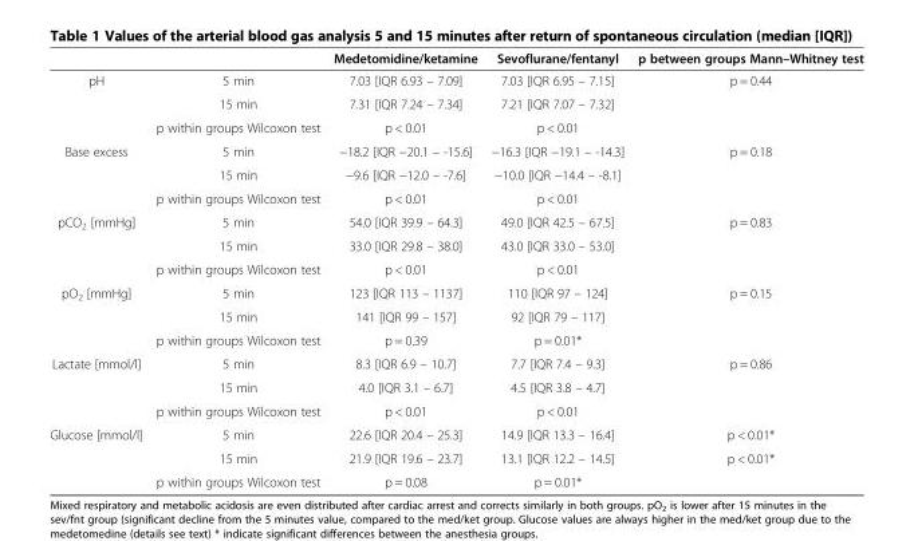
<table><thead><tr><td></td><td></td><td>Medetomidine/ketamine</td><td>Sevoflurane/fentanyl</td><td>p between groups Mann–Whitney test</td></tr></thead><tbody><tr><td rowspan="3">pH</td><td>5 min</td><td>7.03 [IQR 6.93 – 7.09]</td><td>7.03 [IQR 6.95 – 7.15]</td><td>p = 0.44</td></tr><tr><td>15 min</td><td>7.31 [IQR 7.24 – 7.34]</td><td>7.21 [IQR 7.07 – 7.32]</td><td rowspan="2"></td></tr><tr><td>p within groups Wilcoxon test</td><td>p &lt; 0.01</td><td>p &lt; 0.01</td></tr><tr><td rowspan="3">Base excess</td><td>5 min</td><td>−18.2 [IQR −20.1 – -15.6]</td><td>−16.3 [IQR −19.1 – -14.3]</td><td>p = 0.18</td></tr><tr><td>15 min</td><td>−9.6 [IQR −12.0 – -7.6]</td><td>−10.0 [IQR −14.4 – -8.1]</td><td rowspan="2"></td></tr><tr><td>p within groups Wilcoxon test</td><td>p &lt; 0.01</td><td>p &lt; 0.01</td></tr><tr><td rowspan="3">pCO<sub>2</sub> [mmHg]</td><td>5 min</td><td>54.0 [IQR 39.9 – 64.3]</td><td>49.0 [IQR 42.5 – 67.5]</td><td>p = 0.83</td></tr><tr><td>15 min</td><td>33.0 [IQR 29.8 – 38.0]</td><td>43.0 [IQR 33.0 – 53.0]</td><td rowspan="2"></td></tr><tr><td>p within groups Wilcoxon test</td><td>p &lt; 0.01</td><td>p &lt; 0.01</td></tr><tr><td rowspan="3">pO<sub>2</sub> [mmHg]</td><td>5 min</td><td>123 [IQR 113 – 1137]</td><td>110 [IQR 97 – 124]</td><td>p = 0.15</td></tr><tr><td>15 min</td><td>141 [IQR 99 – 157]</td><td>92 [IQR 79 – 117]</td><td rowspan="2"></td></tr><tr><td>p within groups Wilcoxon test</td><td>p = 0.39</td><td>p = 0.01*</td></tr><tr><td rowspan="3">Lactate [mmol/l]</td><td>5 min</td><td>8.3 [IQR 6.9 – 10.7]</td><td>7.7 [IQR 7.4 – 9.3]</td><td>p = 0.86</td></tr><tr><td>15 min</td><td>4.0 [IQR 3.1 – 6.7]</td><td>4.5 [IQR 3.8 – 4.7]</td><td rowspan="2"></td></tr><tr><td>p within groups Wilcoxon test</td><td>p &lt; 0.01</td><td>p &lt; 0.01</td></tr><tr><td rowspan="3">Glucose [mmol/l]</td><td>5 min</td><td>22.6 [IQR 20.4 – 25.3]</td><td>14.9 [IQR 13.3 – 16.4]</td><td>p &lt; 0.01*</td></tr><tr><td>15 min</td><td>21.9 [IQR 19.6 – 23.7]</td><td>13.1 [IQR 12.2 – 14.5]</td><td>p &lt; 0.01*</td></tr><tr><td>p within groups Wilcoxon test</td><td>p = 0.08</td><td>p = 0.01*</td><td></td></tr></tbody></table>